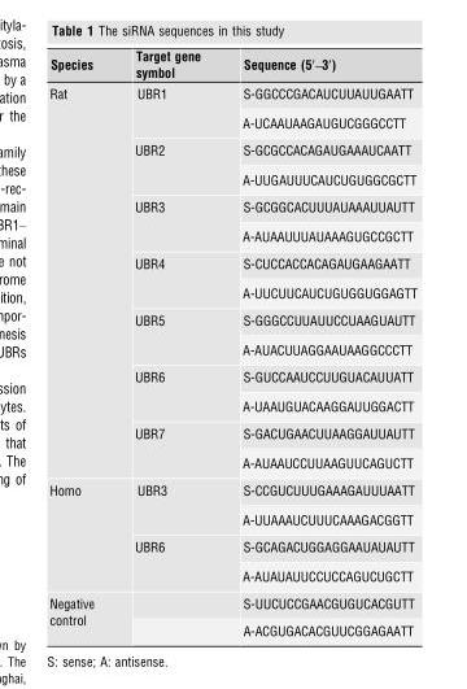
<table><thead><tr><td>Species</td><td>Target gene symbol</td><td>Sequence (5′–3′)</td></tr></thead><tbody><tr><td rowspan="14">Rat</td><td rowspan="2">UBR1</td><td>S-GGCCCGACAUCUUAUUGAATT</td></tr><tr><td>A-UCAAUAAGAUGUCGGGCCTT</td></tr><tr><td rowspan="2">UBR2</td><td>S-GCGCCACAGAUGAAAUCAATT</td></tr><tr><td>A-UUGAUUUCAUCUGUGGCGCTT</td></tr><tr><td rowspan="2">UBR3</td><td>S-GCGGCACUUUAUAAAUUAUTT</td></tr><tr><td>A-AUAAUUUAUAAAGUGCCGCTT</td></tr><tr><td rowspan="2">UBR4</td><td>S-CUCCACCACAGAUGAAGAATT</td></tr><tr><td>A-UUCUUCAUCUGUGGUGGAGTT</td></tr><tr><td rowspan="2">UBR5</td><td>S-GGGCCUUAUUCCUAAGUAUTT</td></tr><tr><td>A-AUACUUAGGAAUAAGGCCCTT</td></tr><tr><td rowspan="2">UBR6</td><td>S-GUCCAAUCCUUGUACAUUATT</td></tr><tr><td>A-UAAUGUACAAGGAUUGGACTT</td></tr><tr><td rowspan="2">UBR7</td><td>S-GACUGAACUUAAGGAUUAUTT</td></tr><tr><td>A-AUAAUCCUUAAGUUCAGUCTT</td></tr><tr><td rowspan="4">Homo</td><td rowspan="2">UBR3</td><td>S-CCGUCUUUGAAAGAUUUAATT</td></tr><tr><td>A-UUAAAUCUUUCAAAGACGGTT</td></tr><tr><td rowspan="2">UBR6</td><td>S-GCAGACUGGAGGAAUAUAUTT</td></tr><tr><td>A-AUAUAUUCCUCCAGUCUGCTT</td></tr><tr><td rowspan="2">Negative control</td><td></td><td>S-UUCUCCGAACGUGUCACGUTT</td></tr><tr><td></td><td>A-ACGUGACACGUUCGGAGAATT</td></tr></tbody></table>